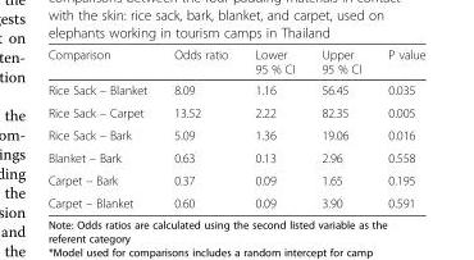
<table><thead><tr><td>Comparison</td><td>Odds ratio</td><td>Lower 95 % CI</td><td>Upper 95 % CI</td><td>P value</td></tr></thead><tbody><tr><td>Rice Sack – Blanket</td><td>8.09</td><td>1.16</td><td>56.45</td><td>0.035</td></tr><tr><td>Rice Sack – Carpet</td><td>13.52</td><td>2.22</td><td>82.35</td><td>0.005</td></tr><tr><td>Rice Sack – Bark</td><td>5.09</td><td>1.36</td><td>19.06</td><td>0.016</td></tr><tr><td>Blanket – Bark</td><td>0.63</td><td>0.13</td><td>2.96</td><td>0.558</td></tr><tr><td>Carpet – Bark</td><td>0.37</td><td>0.09</td><td>1.65</td><td>0.195</td></tr><tr><td>Carpet – Blanket</td><td>0.60</td><td>0.09</td><td>3.90</td><td>0.591</td></tr></tbody></table>